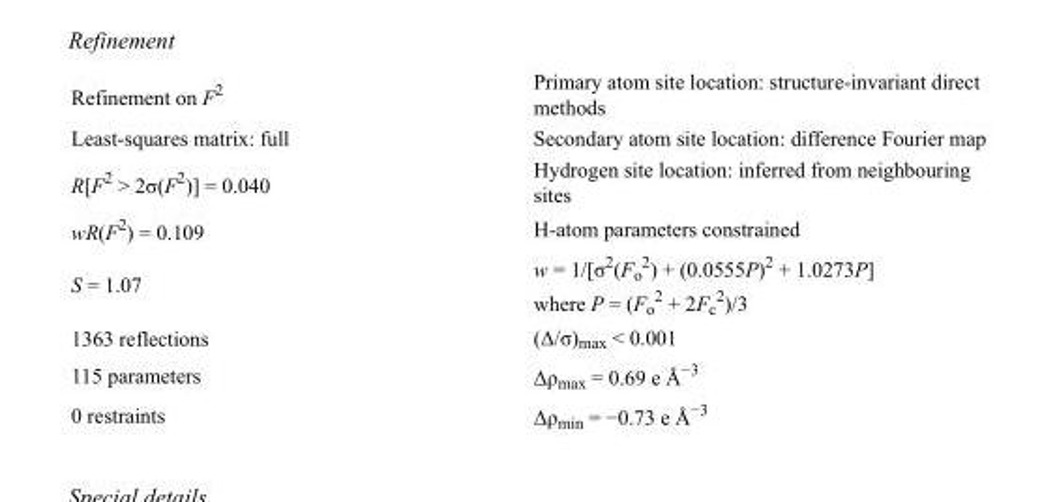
<table><tbody><tr><td>Refinement on F<sup>2</sup></td><td>Primary atom site location: structure-invariant direct methods</td></tr><tr><td>Least-squares matrix: full</td><td>Secondary atom site location: difference Fourier map</td></tr><tr><td>R[F<sup>2</sup> &gt; 2σ(F<sup>2</sup>)] = 0.040</td><td>Hydrogen site location: inferred from neighbouring sites</td></tr><tr><td>wR(F<sup>2</sup>) = 0.109</td><td>H-atom parameters constrained</td></tr><tr><td>S = 1.07</td><td>w = 1/[σ<sup>2</sup>(F<sub>o</sub> <sup>2</sup>) + (0.0555P)<sup>2</sup> + 1.0273P] where P = (F<sub>o</sub> <sup>2</sup> + 2F<sub>c</sub> <sup>2</sup>)/3</td></tr><tr><td>1363 reflections</td><td>(Δ/σ)<sub>max</sub> &lt; 0.001</td></tr><tr><td>115 parameters</td><td>Δρ<sub>max</sub> = 0.69 e Å<sup>−3</sup></td></tr><tr><td>0 restraints</td><td>Δρ<sub>min</sub> = −0.73 e Å<sup>−3</sup></td></tr></tbody></table>